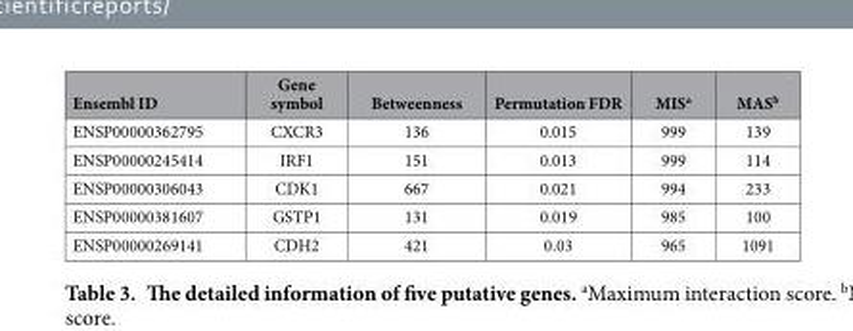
<table><thead><tr><td>Ensembl ID</td><td>Gene symbol</td><td>Betweenness</td><td>Permutation FDR</td><td>MIS<sup>a</sup></td><td>MAS<sup>b</sup></td></tr></thead><tbody><tr><td>ENSP00000362795</td><td>CXCR3</td><td>136</td><td>0.015</td><td>999</td><td>139</td></tr><tr><td>ENSP00000245414</td><td>IRF1</td><td>151</td><td>0.013</td><td>999</td><td>114</td></tr><tr><td>ENSP00000306043</td><td>CDK1</td><td>667</td><td>0.021</td><td>994</td><td>233</td></tr><tr><td>ENSP00000381607</td><td>GSTP1</td><td>131</td><td>0.019</td><td>985</td><td>100</td></tr><tr><td>ENSP00000269141</td><td>CDH2</td><td>421</td><td>0.03</td><td>965</td><td>1091</td></tr></tbody></table>